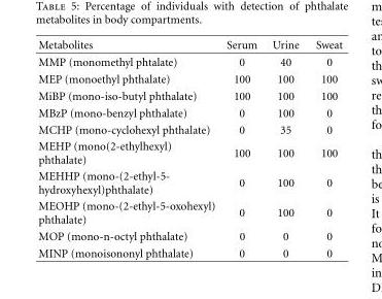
<table><thead><tr><td>Metabolites</td><td>Serum</td><td>Urine</td><td>Sweat</td></tr></thead><tbody><tr><td>MMP (monomethyl phtalate)</td><td>0</td><td>40</td><td>0</td></tr><tr><td>MEP (monoethyl phthalate)</td><td>100</td><td>100</td><td>100</td></tr><tr><td>MiBP (mono-iso-butyl phthalate)</td><td>100</td><td>100</td><td>100</td></tr><tr><td>MBzP (mono-benzyl phthalate)</td><td>0</td><td>100</td><td>0</td></tr><tr><td>MCHP (mono-cyclohexyl phthalate)</td><td>0</td><td>35</td><td>0</td></tr><tr><td>MEHP (mono(2-ethylhexyl) phthalate)</td><td>100</td><td>100</td><td>100</td></tr><tr><td>MEHHP (mono-(2-ethyl-5- hydroxyhexyl)phthalate)</td><td>0</td><td>100</td><td>0</td></tr><tr><td>MEOHP (mono-(2-ethyl-5-oxohexyl) phthalate)</td><td>0</td><td>100</td><td>0</td></tr><tr><td>MOP (mono-n-octyl phthalate)</td><td>0</td><td>0</td><td>0</td></tr><tr><td>MINP (monoisononyl phthalate)</td><td>0</td><td>0</td><td>0</td></tr></tbody></table>